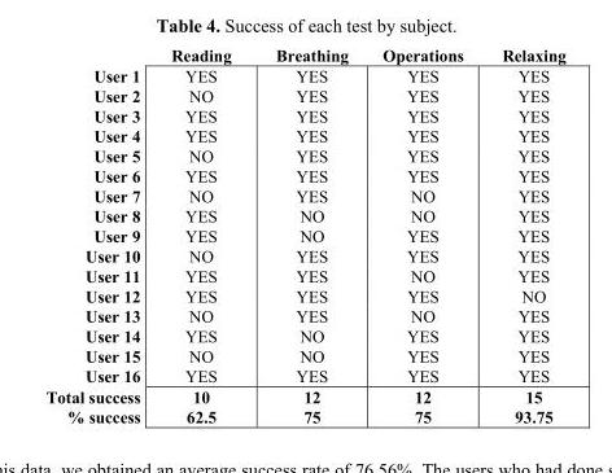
<table><thead><tr><td></td><td>Reading</td><td>Breathing</td><td>Operations</td><td>Relaxing</td></tr></thead><tbody><tr><td>User 1</td><td>YES</td><td>YES</td><td>YES</td><td>YES</td></tr><tr><td>User 2</td><td>NO</td><td>YES</td><td>YES</td><td>YES</td></tr><tr><td>User 3</td><td>YES</td><td>YES</td><td>YES</td><td>YES</td></tr><tr><td>User 4</td><td>YES</td><td>YES</td><td>YES</td><td>YES</td></tr><tr><td>User 5</td><td>NO</td><td>YES</td><td>YES</td><td>YES</td></tr><tr><td>User 6</td><td>YES</td><td>YES</td><td>YES</td><td>YES</td></tr><tr><td>User 7</td><td>NO</td><td>YES</td><td>NO</td><td>YES</td></tr><tr><td>User 8</td><td>YES</td><td>NO</td><td>NO</td><td>YES</td></tr><tr><td>User 9</td><td>YES</td><td>NO</td><td>YES</td><td>YES</td></tr><tr><td>User 10</td><td>NO</td><td>YES</td><td>YES</td><td>YES</td></tr><tr><td>User 11</td><td>YES</td><td>YES</td><td>NO</td><td>YES</td></tr><tr><td>User 12</td><td>YES</td><td>YES</td><td>YES</td><td>NO</td></tr><tr><td>User 13</td><td>NO</td><td>YES</td><td>NO</td><td>YES</td></tr><tr><td>User 14</td><td>YES</td><td>NO</td><td>YES</td><td>YES</td></tr><tr><td>User 15</td><td>NO</td><td>NO</td><td>YES</td><td>YES</td></tr><tr><td>User 16</td><td>YES</td><td>YES</td><td>YES</td><td>YES</td></tr><tr><td>Total success</td><td>10</td><td>12</td><td>12</td><td>15</td></tr><tr><td>% success</td><td>62.5</td><td>75</td><td>75</td><td>93.75</td></tr></tbody></table>